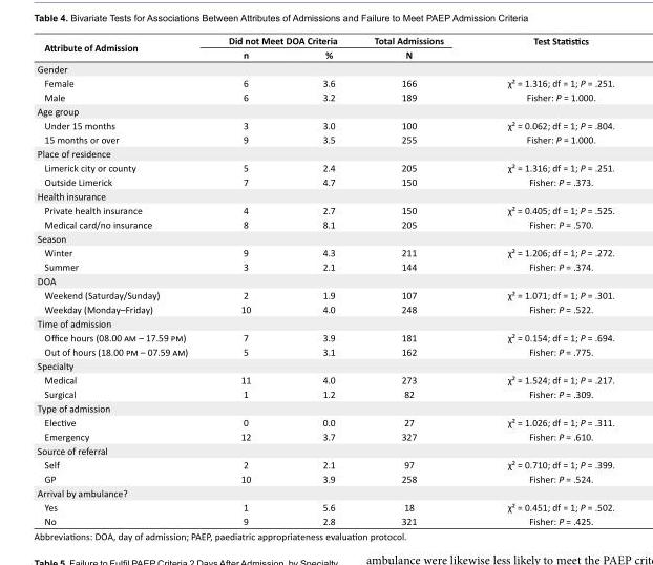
<table><tbody><tr><td rowspan="2">Attribute of Admission</td><td colspan="2">Did not Meet DOA Criteria</td><td>Total Admissions</td><td rowspan="2">Test Statistics</td></tr><tr><td>n</td><td>%</td><td>N</td></tr><tr><td colspan="5">Gender</td></tr><tr><td>Female</td><td>6</td><td>3.6</td><td>166</td><td>χ² = 1.316; df = 1; P = .251.</td></tr><tr><td>Male</td><td>6</td><td>3.2</td><td>189</td><td>Fisher: P = 1.000.</td></tr><tr><td colspan="5">Age group</td></tr><tr><td>Under 15 months</td><td>3</td><td>3.0</td><td>100</td><td>χ² = 0.062; df = 1; P = .804.</td></tr><tr><td>15 months or over</td><td>9</td><td>3.5</td><td>255</td><td>Fisher: P = 1.000.</td></tr><tr><td colspan="5">Place of residence</td></tr><tr><td>Limerick city or county</td><td>5</td><td>2.4</td><td>205</td><td>χ² = 1.316; df = 1; P = .251.</td></tr><tr><td>Outside Limerick</td><td>7</td><td>4.7</td><td>150</td><td>Fisher: P = .373.</td></tr><tr><td colspan="5">Health insurance</td></tr><tr><td>Private health insurance</td><td>4</td><td>2.7</td><td>150</td><td>χ² = 0.405; df = 1; P = .525.</td></tr><tr><td>Medical card/no insurance</td><td>8</td><td>8.1</td><td>205</td><td>Fisher: P = .570.</td></tr><tr><td colspan="5">Season</td></tr><tr><td>Winter</td><td>9</td><td>4.3</td><td>211</td><td>χ² = 1.206; df = 1; P = .272.</td></tr><tr><td>Summer</td><td>3</td><td>2.1</td><td>144</td><td>Fisher: P = .374.</td></tr><tr><td colspan="5">DOA</td></tr><tr><td>Weekend (Saturday/Sunday)</td><td>2</td><td>1.9</td><td>107</td><td>χ² = 1.071; df = 1; P = .301.</td></tr><tr><td>Weekday (Monday–Friday)</td><td>10</td><td>4.0</td><td>248</td><td>Fisher: P = .522.</td></tr><tr><td colspan="5">Time of admission</td></tr><tr><td>Office hours (08.00 am – 17.59 pm)</td><td>7</td><td>3.9</td><td>181</td><td>χ² = 0.154; df = 1; P = .694.</td></tr><tr><td>Out of hours (18.00 pm – 07.59 am)</td><td>5</td><td>3.1</td><td>162</td><td>Fisher: P = .775.</td></tr><tr><td colspan="5">Specialty</td></tr><tr><td>Medical</td><td>11</td><td>4.0</td><td>273</td><td>χ² = 1.524; df = 1; P = .217.</td></tr><tr><td>Surgical</td><td>1</td><td>1.2</td><td>82</td><td>Fisher: P = .309.</td></tr><tr><td colspan="5">Type of admission</td></tr><tr><td>Elective</td><td>0</td><td>0.0</td><td>27</td><td>χ² = 1.026; df = 1; P = .311.</td></tr><tr><td>Emergency</td><td>12</td><td>3.7</td><td>327</td><td>Fisher: P = .610.</td></tr><tr><td colspan="5">Source of referral</td></tr><tr><td>Self</td><td>2</td><td>2.1</td><td>97</td><td>χ² = 0.710; df = 1; P = .399.</td></tr><tr><td>GP</td><td>10</td><td>3.9</td><td>258</td><td>Fisher: P = .524.</td></tr><tr><td colspan="5">Arrival by ambulance?</td></tr><tr><td>Yes</td><td>1</td><td>5.6</td><td>18</td><td>χ² = 0.451; df = 1; P = .502.</td></tr><tr><td>No</td><td>9</td><td>2.8</td><td>321</td><td>Fisher: P = .425.</td></tr></tbody></table>